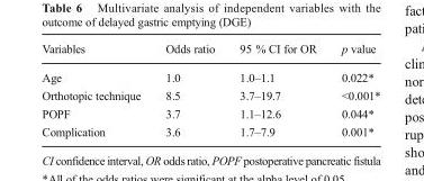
<table><thead><tr><td>Variables</td><td>Odds ratio</td><td>95 % CI for OR</td><td>p value</td></tr></thead><tbody><tr><td>Age</td><td>1.0</td><td>1.0–1.1</td><td>0.022*</td></tr><tr><td>Orthotopic technique</td><td>8.5</td><td>3.7–19.7</td><td>&lt;0.001*</td></tr><tr><td>POPF</td><td>3.7</td><td>1.1–12.6</td><td>0.044*</td></tr><tr><td>Complication</td><td>3.6</td><td>1.7–7.9</td><td>0.001*</td></tr></tbody></table>